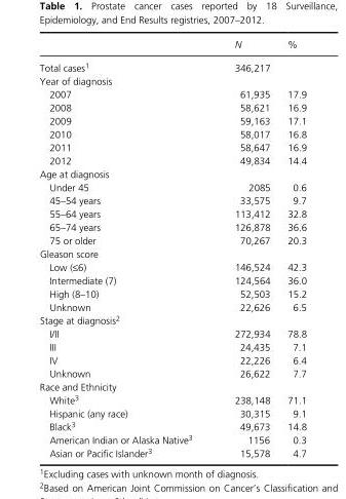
<table><thead><tr><td></td><td>N</td><td>%</td></tr></thead><tbody><tr><td>Total cases1</td><td>346,217</td><td></td></tr><tr><td colspan="3">Year of diagnosis</td></tr><tr><td>2007</td><td>61,935</td><td>17.9</td></tr><tr><td>2008</td><td>58,621</td><td>16.9</td></tr><tr><td>2009</td><td>59,163</td><td>17.1</td></tr><tr><td>2010</td><td>58,017</td><td>16.8</td></tr><tr><td>2011</td><td>58,647</td><td>16.9</td></tr><tr><td>2012</td><td>49,834</td><td>14.4</td></tr><tr><td colspan="3">Age at diagnosis</td></tr><tr><td>Under 45</td><td>2085</td><td>0.6</td></tr><tr><td>45–54 years</td><td>33,575</td><td>9.7</td></tr><tr><td>55–64 years</td><td>113,412</td><td>32.8</td></tr><tr><td>65–74 years</td><td>126,878</td><td>36.6</td></tr><tr><td>75 or older</td><td>70,267</td><td>20.3</td></tr><tr><td colspan="3">Gleason score</td></tr><tr><td>Low (≤6)</td><td>146,524</td><td>42.3</td></tr><tr><td>Intermediate (7)</td><td>124,564</td><td>36.0</td></tr><tr><td>High (8–10)</td><td>52,503</td><td>15.2</td></tr><tr><td>Unknown</td><td>22,626</td><td>6.5</td></tr><tr><td colspan="3">Stage at diagnosis2</td></tr><tr><td>I/II</td><td>272,934</td><td>78.8</td></tr><tr><td>III</td><td>24,435</td><td>7.1</td></tr><tr><td>IV</td><td>22,226</td><td>6.4</td></tr><tr><td>Unknown</td><td>26,622</td><td>7.7</td></tr><tr><td colspan="3">Race and Ethnicity</td></tr><tr><td>White3</td><td>238,148</td><td>71.1</td></tr><tr><td>Hispanic (any race)</td><td>30,315</td><td>9.1</td></tr><tr><td>Black3</td><td>49,673</td><td>14.8</td></tr><tr><td>American Indian or Alaska Native3</td><td>1156</td><td>0.3</td></tr><tr><td>Asian or Pacific Islander3</td><td>15,578</td><td>4.7</td></tr></tbody></table>